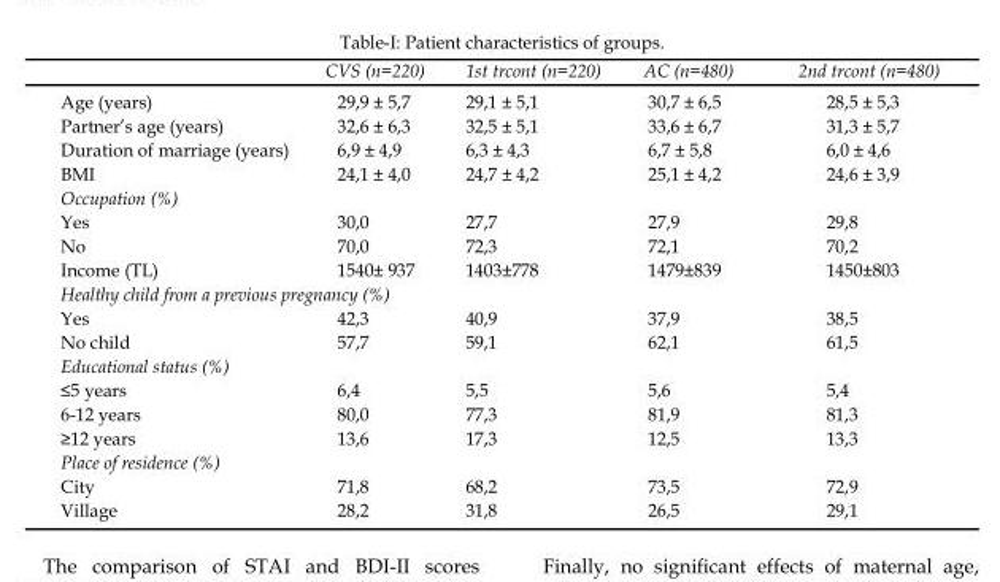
<table><thead><tr><td></td><td>CVS (n=220)</td><td>1st trcont (n=220)</td><td>AC (n=480)</td><td>2nd trcont (n=480)</td></tr></thead><tbody><tr><td>Age (years)</td><td>29,9 ± 5,7</td><td>29,1 ± 5,1</td><td>30,7 ± 6,5</td><td>28,5 ± 5,3</td></tr><tr><td>Partner’s age (years)</td><td>32,6 ± 6,3</td><td>32,5 ± 5,1</td><td>33,6 ± 6,7</td><td>31,3 ± 5,7</td></tr><tr><td>Duration of marriage (years)</td><td>6,9 ± 4,9</td><td>6,3 ± 4,3</td><td>6,7 ± 5,8</td><td>6,0 ± 4,6</td></tr><tr><td>BMI</td><td>24,1 ± 4,0</td><td>24,7 ± 4,2</td><td>25,1 ± 4,2</td><td>24,6 ± 3,9</td></tr><tr><td colspan="5">Occupation (%)</td></tr><tr><td>Yes</td><td>30,0</td><td>27,7</td><td>27,9</td><td>29,8</td></tr><tr><td>No</td><td>70,0</td><td>72,3</td><td>72,1</td><td>70,2</td></tr><tr><td>Income (TL)</td><td>1540± 937</td><td>1403±778</td><td>1479±839</td><td>1450±803</td></tr><tr><td colspan="5">Healthy child from a previous pregnancy (%)</td></tr><tr><td>Yes</td><td>42,3</td><td>40,9</td><td>37,9</td><td>38,5</td></tr><tr><td>No child</td><td>57,7</td><td>59,1</td><td>62,1</td><td>61,5</td></tr><tr><td colspan="5">Educational status (%)</td></tr><tr><td>≤5 years</td><td>6,4</td><td>5,5</td><td>5,6</td><td>5,4</td></tr><tr><td>6-12 years</td><td>80,0</td><td>77,3</td><td>81,9</td><td>81,3</td></tr><tr><td>≥12 years</td><td>13,6</td><td>17,3</td><td>12,5</td><td>13,3</td></tr><tr><td colspan="5">Place of residence (%)</td></tr><tr><td>City</td><td>71,8</td><td>68,2</td><td>73,5</td><td>72,9</td></tr><tr><td>Village</td><td>28,2</td><td>31,8</td><td>26,5</td><td>29,1</td></tr></tbody></table>